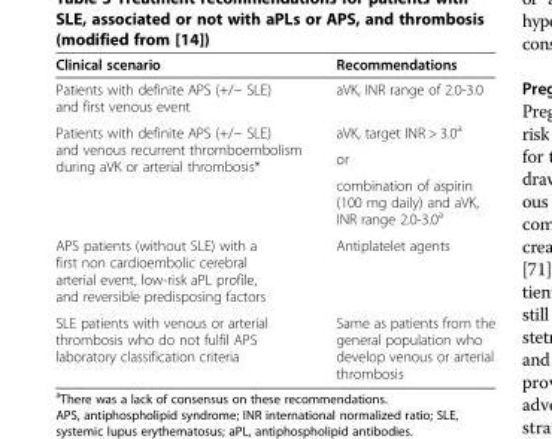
<table><thead><tr><td>Clinical scenario</td><td>Recommendations</td></tr></thead><tbody><tr><td>Patients with definite APS (+/− SLE) and first venous event</td><td>aVK, INR range of 2.0-3.0</td></tr><tr><td rowspan="3">Patients with definite APS (+/− SLE) and venous recurrent thromboembolism during aVK or arterial thrombosis*</td><td>aVK, target INR &gt; 3.0<sup>a</sup></td></tr><tr><td>or</td></tr><tr><td>combination of aspirin (100 mg daily) and aVK, INR range 2.0-3.0<sup>a</sup></td></tr><tr><td>APS patients (without SLE) with a first non cardioembolic cerebral arterial event, low-risk aPL profile, and reversible predisposing factors</td><td>Antiplatelet agents</td></tr><tr><td>SLE patients with venous or arterial thrombosis who do not fulfil APS laboratory classification criteria</td><td>Same as patients from the general population who develop venous or arterial thrombosis</td></tr></tbody></table>